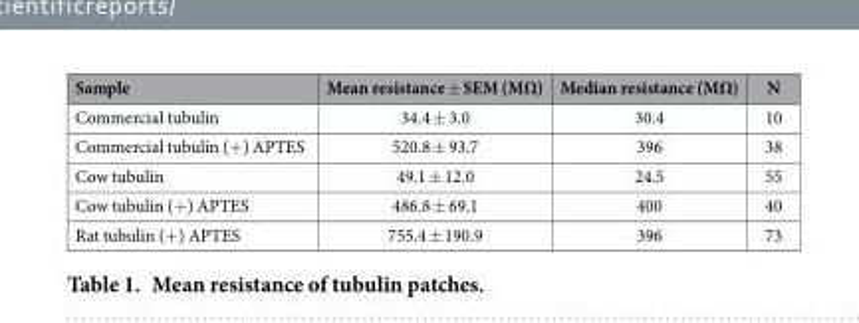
<table><thead><tr><td>Sample</td><td>Mean resistance ± SEM (MΩ)</td><td>Median resistance (MΩ)</td><td>N</td></tr></thead><tbody><tr><td>Commercial tubulin</td><td>34.4 ± 3.0</td><td>30.4</td><td>10</td></tr><tr><td>Commercial tubulin (+ ) APTES</td><td>520.8 ± 93.7</td><td>396</td><td>38</td></tr><tr><td>Cow tubulin</td><td>49.1 ± 12.0</td><td>24.5</td><td>55</td></tr><tr><td>Cow tubulin (+ ) APTES</td><td>486.8 ± 69.1</td><td>400</td><td>40</td></tr><tr><td>Rat tubulin (+ ) APTES</td><td>755.4 ± 190.9</td><td>396</td><td>73</td></tr></tbody></table>